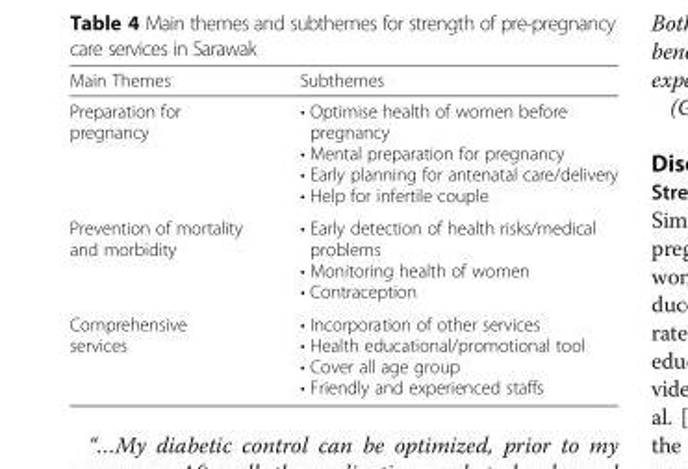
<table><thead><tr><td>Main Themes</td><td>Subthemes</td></tr></thead><tbody><tr><td>Preparation for pregnancy</td><td>• Optimise health of women before pregnancy • Mental preparation for pregnancy • Early planning for antenatal care/delivery • Help for infertile couple</td></tr><tr><td>Prevention of mortality and morbidity</td><td>• Early detection of health risks/medical problems • Monitoring health of women • Contraception</td></tr><tr><td>Comprehensive services</td><td>• Incorporation of other services • Health educational/promotional tool • Cover all age group • Friendly and experienced staffs</td></tr></tbody></table>